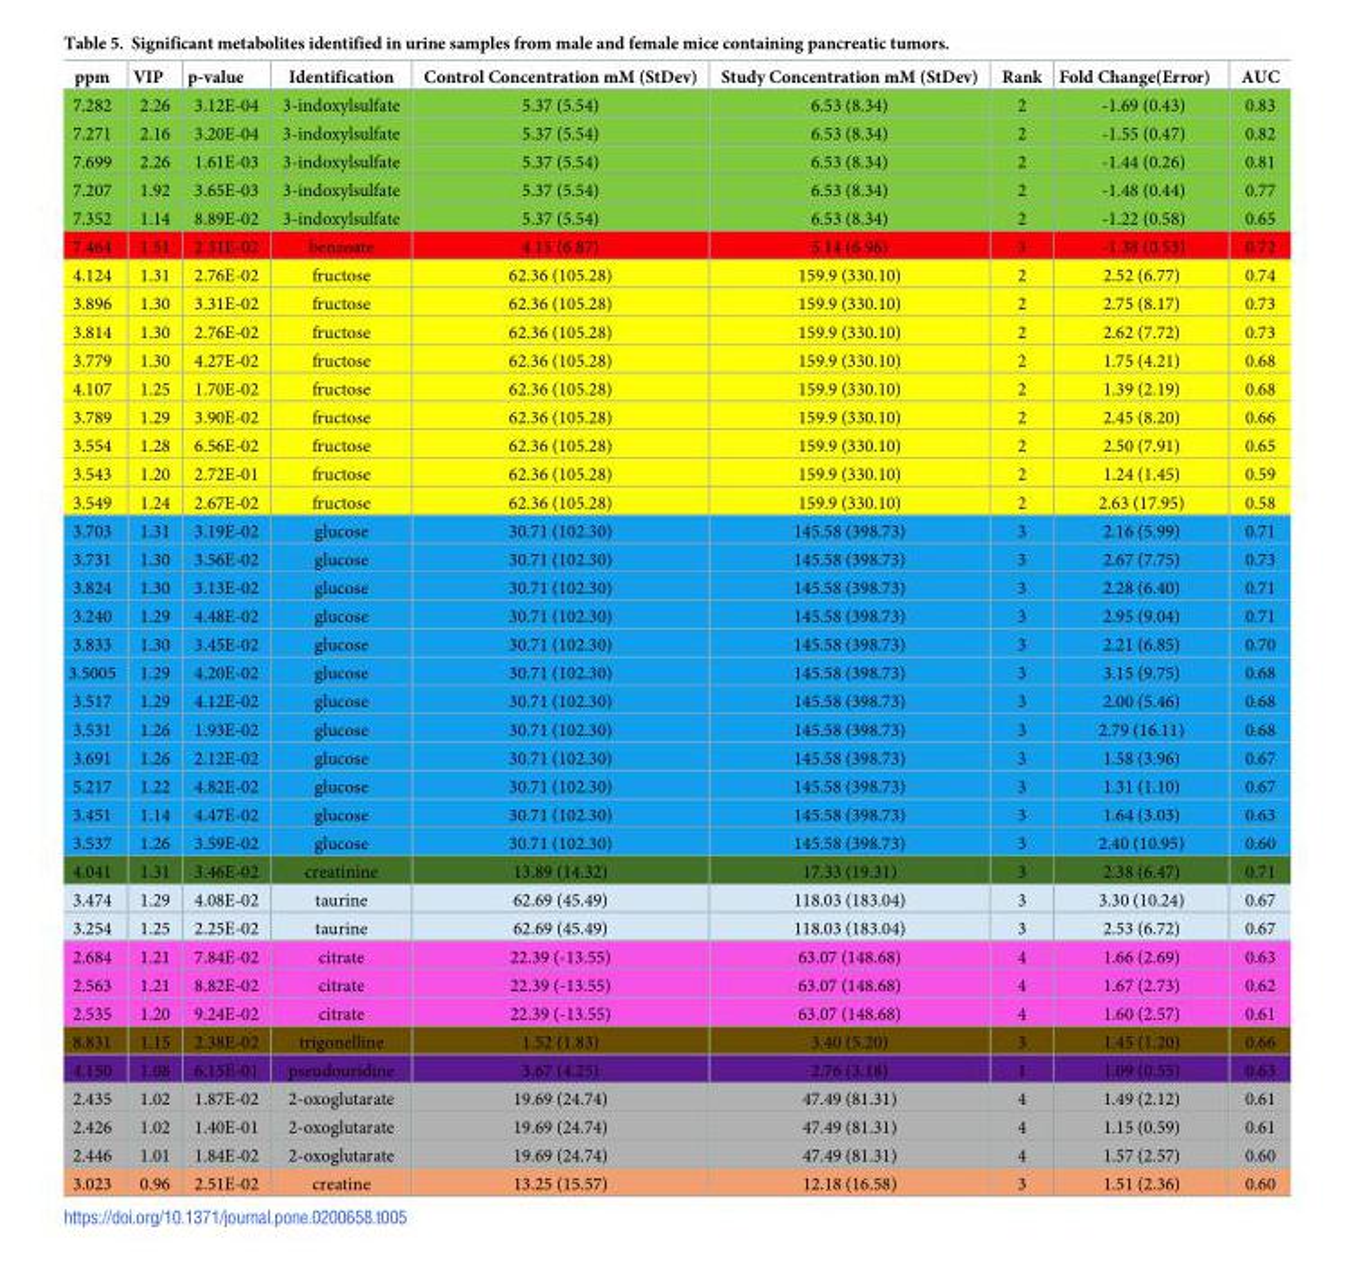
<table><thead><tr><td>ppm</td><td>VIP</td><td>p-value</td><td>Identification</td><td>Control Concentration mM (StDev)</td><td>Study Concentration mM (StDev)</td><td>Rank</td><td>Fold Change(Error)</td><td>AUC</td></tr></thead><tbody><tr><td>7.282</td><td>2.26</td><td>3.12E-04</td><td>3-indoxylsulfate</td><td>5.37 (5.54)</td><td>6.53 (8.34)</td><td>2</td><td>-1.69 (0.43)</td><td>0.83</td></tr><tr><td>7.271</td><td>2.16</td><td>3.20E-04</td><td>3-indoxylsulfate</td><td>5.37 (5.54)</td><td>6.53 (8.34)</td><td>2</td><td>-1.55 (0.47)</td><td>0.82</td></tr><tr><td>7.699</td><td>2.26</td><td>1.61E-03</td><td>3-indoxylsulfate</td><td>5.37 (5.54)</td><td>6.53 (8.34)</td><td>2</td><td>-1.44 (0.26)</td><td>0.81</td></tr><tr><td>7.207</td><td>1.92</td><td>3.65E-03</td><td>3-indoxylsulfate</td><td>5.37 (5.54)</td><td>6.53 (8.34)</td><td>2</td><td>-1.48 (0.44)</td><td>0.77</td></tr><tr><td>7.352</td><td>1.14</td><td>8.89E-02</td><td>3-indoxylsulfate</td><td>5.37 (5.54)</td><td>6.53 (8.34)</td><td>2</td><td>-1.22 (0.58)</td><td>0.65</td></tr><tr><td>7.464</td><td>1.51</td><td>2.31E-02</td><td>benzoate</td><td>4.15 (6.87)</td><td>5.14 (6.96)</td><td>3</td><td>-1.38 (0.53)</td><td>0.72</td></tr><tr><td>4.124</td><td>1.31</td><td>2.76E-02</td><td>fructose</td><td>62.36 (105.28)</td><td>159.9 (330.10)</td><td>2</td><td>2.52 (6.77)</td><td>0.74</td></tr><tr><td>3.896</td><td>1.30</td><td>3.31E-02</td><td>fructose</td><td>62.36 (105.28)</td><td>159.9 (330.10)</td><td>2</td><td>2.75 (8.17)</td><td>0.73</td></tr><tr><td>3.814</td><td>1.30</td><td>2.76E-02</td><td>fructose</td><td>62.36 (105.28)</td><td>159.9 (330.10)</td><td>2</td><td>2.62 (7.72)</td><td>0.73</td></tr><tr><td>3.779</td><td>1.30</td><td>4.27E-02</td><td>fructose</td><td>62.36 (105.28)</td><td>159.9 (330.10)</td><td>2</td><td>1.75 (4.21)</td><td>0.68</td></tr><tr><td>4.107</td><td>1.25</td><td>1.70E-02</td><td>fructose</td><td>62.36 (105.28)</td><td>159.9 (330.10)</td><td>2</td><td>1.39 (2.19)</td><td>0.68</td></tr><tr><td>3.789</td><td>1.29</td><td>3.90E-02</td><td>fructose</td><td>62.36 (105.28)</td><td>159.9 (330.10)</td><td>2</td><td>2.45 (8.20)</td><td>0.66</td></tr><tr><td>3.554</td><td>1.28</td><td>6.56E-02</td><td>fructose</td><td>62.36 (105.28)</td><td>159.9 (330.10)</td><td>2</td><td>2.50 (7.91)</td><td>0.65</td></tr><tr><td>3.543</td><td>1.20</td><td>2.72E-01</td><td>fructose</td><td>62.36 (105.28)</td><td>159.9 (330.10)</td><td>2</td><td>1.24 (1.45)</td><td>0.59</td></tr><tr><td>3.549</td><td>1.24</td><td>2.67E-02</td><td>fructose</td><td>62.36 (105.28)</td><td>159.9 (330.10)</td><td>2</td><td>2.63 (17.95)</td><td>0.58</td></tr><tr><td>3.703</td><td>1.31</td><td>3.19E-02</td><td>glucose</td><td>30.71 (102.30)</td><td>145.58 (398.73)</td><td>3</td><td>2.16 (5.99)</td><td>0.71</td></tr><tr><td>3.731</td><td>1.30</td><td>3.56E-02</td><td>glucose</td><td>30.71 (102.30)</td><td>145.58 (398.73)</td><td>3</td><td>2.67 (7.75)</td><td>0.73</td></tr><tr><td>3.824</td><td>1.30</td><td>3.13E-02</td><td>glucose</td><td>30.71 (102.30)</td><td>145.58 (398.73)</td><td>3</td><td>2.28 (6.40)</td><td>0.71</td></tr><tr><td>3.240</td><td>1.29</td><td>4.48E-02</td><td>glucose</td><td>30.71 (102.30)</td><td>145.58 (398.73)</td><td>3</td><td>2.95 (9.04)</td><td>0.71</td></tr><tr><td>3.833</td><td>1.30</td><td>3.45E-02</td><td>glucose</td><td>30.71 (102.30)</td><td>145.58 (398.73)</td><td>3</td><td>2.21 (6.85)</td><td>0.70</td></tr><tr><td>3.5005</td><td>1.29</td><td>4.20E-02</td><td>glucose</td><td>30.71 (102.30)</td><td>145.58 (398.73)</td><td>3</td><td>3.15 (9.75)</td><td>0.68</td></tr><tr><td>3.517</td><td>1.29</td><td>4.12E-02</td><td>glucose</td><td>30.71 (102.30)</td><td>145.58 (398.73)</td><td>3</td><td>2.00 (5.46)</td><td>0.68</td></tr><tr><td>3.531</td><td>1.26</td><td>1.93E-02</td><td>glucose</td><td>30.71 (102.30)</td><td>145.58 (398.73)</td><td>3</td><td>2.79 (16.11)</td><td>0.68</td></tr><tr><td>3.691</td><td>1.26</td><td>2.12E-02</td><td>glucose</td><td>30.71 (102.30)</td><td>145.58 (398.73)</td><td>3</td><td>1.58 (3.96)</td><td>0.67</td></tr><tr><td>5.217</td><td>1.22</td><td>4.82E-02</td><td>glucose</td><td>30.71 (102.30)</td><td>145.58 (398.73)</td><td>3</td><td>1.31 (1.10)</td><td>0.67</td></tr><tr><td>3.451</td><td>1.14</td><td>4.47E-02</td><td>glucose</td><td>30.71 (102.30)</td><td>145.58 (398.73)</td><td>3</td><td>1.64 (3.03)</td><td>0.63</td></tr><tr><td>3.537</td><td>1.26</td><td>3.59E-02</td><td>glucose</td><td>30.71 (102.30)</td><td>145.58 (398.73)</td><td>3</td><td>2.40 (10.95)</td><td>0.60</td></tr><tr><td>4.041</td><td>1.31</td><td>3.46E-02</td><td>creatinine</td><td>13.89 (14.32)</td><td>17.33 (19.31)</td><td>3</td><td>2.38 (6.47)</td><td>0.71</td></tr><tr><td>3.474</td><td>1.29</td><td>4.08E-02</td><td>taurine</td><td>62.69 (45.49)</td><td>118.03 (183.04)</td><td>3</td><td>3.30 (10.24)</td><td>0.67</td></tr><tr><td>3.254</td><td>1.25</td><td>2.25E-02</td><td>taurine</td><td>62.69 (45.49)</td><td>118.03 (183.04)</td><td>3</td><td>2.53 (6.72)</td><td>0.67</td></tr><tr><td>2.684</td><td>1.21</td><td>7.84E-02</td><td>citrate</td><td>22.39 (-13.55)</td><td>63.07 (148.68)</td><td>4</td><td>1.66 (2.69)</td><td>0.63</td></tr><tr><td>2.563</td><td>1.21</td><td>8.82E-02</td><td>citrate</td><td>22.39 (-13.55)</td><td>63.07 (148.68)</td><td>4</td><td>1.67 (2.73)</td><td>0.62</td></tr><tr><td>2.535</td><td>1.20</td><td>9.24E-02</td><td>citrate</td><td>22.39 (-13.55)</td><td>63.07 (148.68)</td><td>4</td><td>1.60 (2.57)</td><td>0.61</td></tr><tr><td>8.831</td><td>1.15</td><td>2.38E-02</td><td>trigonelline</td><td>1.52 (1.83)</td><td>3.40 (5.20)</td><td>3</td><td>1.45 (1.20)</td><td>0.66</td></tr><tr><td>4.150</td><td>1.08</td><td>6.15E-01</td><td>pseudouridine</td><td>3.67 (4.25)</td><td>2.76 (3.18)</td><td>1</td><td>1.09 (0.55)</td><td>0.63</td></tr><tr><td>2.435</td><td>1.02</td><td>1.87E-02</td><td>2-oxoglutarate</td><td>19.69 (24.74)</td><td>47.49 (81.31)</td><td>4</td><td>1.49 (2.12)</td><td>0.61</td></tr><tr><td>2.426</td><td>1.02</td><td>1.40E-01</td><td>2-oxoglutarate</td><td>19.69 (24.74)</td><td>47.49 (81.31)</td><td>4</td><td>1.15 (0.59)</td><td>0.61</td></tr><tr><td>2.446</td><td>1.01</td><td>1.84E-02</td><td>2-oxoglutarate</td><td>19.69 (24.74)</td><td>47.49 (81.31)</td><td>4</td><td>1.57 (2.57)</td><td>0.60</td></tr><tr><td>3.023</td><td>0.96</td><td>2.51E-02</td><td>creatine</td><td>13.25 (15.57)</td><td>12.18 (16.58)</td><td>3</td><td>1.51 (2.36)</td><td>0.60</td></tr></tbody></table>